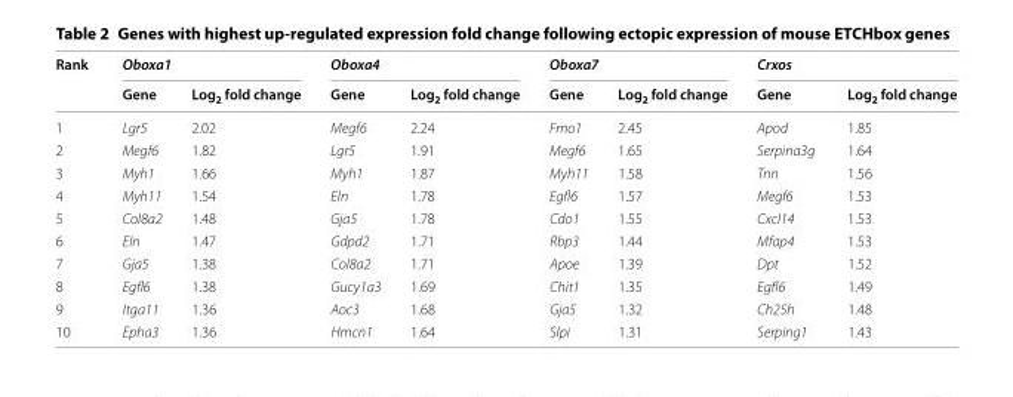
<table><thead><tr><td rowspan="2">Rank</td><td colspan="2">Oboxa1</td><td colspan="2">Oboxa4</td><td colspan="2">Oboxa7</td><td colspan="2">Crxos</td></tr><tr><td>Gene</td><td>Log<sub>2</sub> fold change</td><td>Gene</td><td>Log<sub>2</sub> fold change</td><td>Gene</td><td>Log<sub>2</sub> fold change</td><td>Gene</td><td>Log<sub>2</sub> fold change</td></tr></thead><tbody><tr><td>1</td><td>Lgr5</td><td>2.02</td><td>Megf6</td><td>2.24</td><td>Fmo1</td><td>2.45</td><td>Apod</td><td>1.85</td></tr><tr><td>2</td><td>Megf6</td><td>1.82</td><td>Lgr5</td><td>1.91</td><td>Megf6</td><td>1.65</td><td>Serpina3g</td><td>1.64</td></tr><tr><td>3</td><td>Myh1</td><td>1.66</td><td>Myh1</td><td>1.87</td><td>Myh11</td><td>1.58</td><td>Tnn</td><td>1.56</td></tr><tr><td>4</td><td>Myh11</td><td>1.54</td><td>Eln</td><td>1.78</td><td>Egfl6</td><td>1.57</td><td>Megf6</td><td>1.53</td></tr><tr><td>5</td><td>Col8a2</td><td>1.48</td><td>Gja5</td><td>1.78</td><td>Cdo1</td><td>1.55</td><td>Cxcl14</td><td>1.53</td></tr><tr><td>6</td><td>Eln</td><td>1.47</td><td>Gdpd2</td><td>1.71</td><td>Rbp3</td><td>1.44</td><td>Mfap4</td><td>1.53</td></tr><tr><td>7</td><td>Gja5</td><td>1.38</td><td>Col8a2</td><td>1.71</td><td>Apoe</td><td>1.39</td><td>Dpt</td><td>1.52</td></tr><tr><td>8</td><td>Egfl6</td><td>1.38</td><td>Gucy1a3</td><td>1.69</td><td>Chit1</td><td>1.35</td><td>Egfl6</td><td>1.49</td></tr><tr><td>9</td><td>Itga11</td><td>1.36</td><td>Aoc3</td><td>1.68</td><td>Gja5</td><td>1.32</td><td>Ch25h</td><td>1.48</td></tr><tr><td>10</td><td>Epha3</td><td>1.36</td><td>Hmcn1</td><td>1.64</td><td>Slpi</td><td>1.31</td><td>Serping1</td><td>1.43</td></tr></tbody></table>